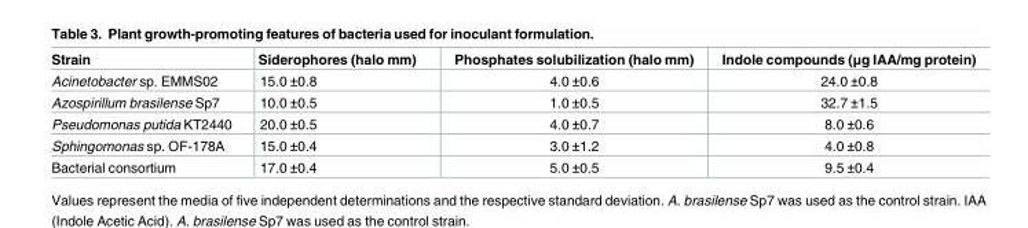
<table><thead><tr><td>Strain</td><td>Siderophores (halo mm)</td><td>Phosphates solubilization (halo mm)</td><td>Indole compounds (μg IAA/mg protein)</td></tr></thead><tbody><tr><td>Acinetobacter sp. EMMS02</td><td>15.0 ±0.8</td><td>4.0 ±0.6</td><td>24.0 ±0.8</td></tr><tr><td>Azospirillum brasilense Sp7</td><td>10.0 ±0.5</td><td>1.0 ±0.5</td><td>32.7 ±1.5</td></tr><tr><td>Pseudomonas putida KT2440</td><td>20.0 ±0.5</td><td>4.0 ±0.7</td><td>8.0 ±0.6</td></tr><tr><td>Sphingomonas sp. OF-178A</td><td>15.0 ±0.4</td><td>3.0 ±1.2</td><td>4.0 ±0.8</td></tr><tr><td>Bacterial consortium</td><td>17.0 ±0.4</td><td>5.0 ±0.5</td><td>9.5 ±0.4</td></tr></tbody></table>